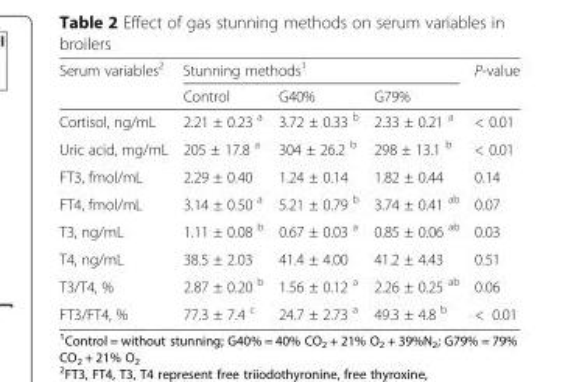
<table><thead><tr><td rowspan="2">Serum variables<sup>2</sup></td><td colspan="3">Stunning methods<sup>1</sup></td><td rowspan="2">P-value</td></tr><tr><td>Control</td><td>G40%</td><td>G79%</td></tr></thead><tbody><tr><td>Cortisol, ng/mL</td><td>2.21 ± 0.23 <sup>a</sup></td><td>3.72 ± 0.33 <sup>b</sup></td><td>2.33 ± 0.21 <sup>a</sup></td><td>&lt; 0.01</td></tr><tr><td>Uric acid, mg/mL</td><td>205 ± 17.8 <sup>a</sup></td><td>304 ± 26.2 <sup>b</sup></td><td>298 ± 13.1 <sup>b</sup></td><td>&lt; 0.01</td></tr><tr><td>FT3, fmol/mL</td><td>2.29 ± 0.40</td><td>1.24 ± 0.14</td><td>1.82 ± 0.44</td><td>0.14</td></tr><tr><td>FT4, fmol/mL</td><td>3.14 ± 0.50 <sup>a</sup></td><td>5.21 ± 0.79 <sup>b</sup></td><td>3.74 ± 0.41 <sup>ab</sup></td><td>0.07</td></tr><tr><td>T3, ng/mL</td><td>1.11 ± 0.08 <sup>b</sup></td><td>0.67 ± 0.03 <sup>a</sup></td><td>0.85 ± 0.06 <sup>ab</sup></td><td>0.03</td></tr><tr><td>T4, ng/mL</td><td>38.5 ± 2.03</td><td>41.4 ± 4.00</td><td>41.2 ± 4.43</td><td>0.51</td></tr><tr><td>T3/T4, %</td><td>2.87 ± 0.20 <sup>b</sup></td><td>1.56 ± 0.12 <sup>a</sup></td><td>2.26 ± 0.25 <sup>ab</sup></td><td>0.06</td></tr><tr><td>FT3/FT4, %</td><td>77.3 ± 7.4 <sup>c</sup></td><td>24.7 ± 2.73 <sup>a</sup></td><td>49.3 ± 4.8 <sup>b</sup></td><td>&lt; 0.01</td></tr></tbody></table>